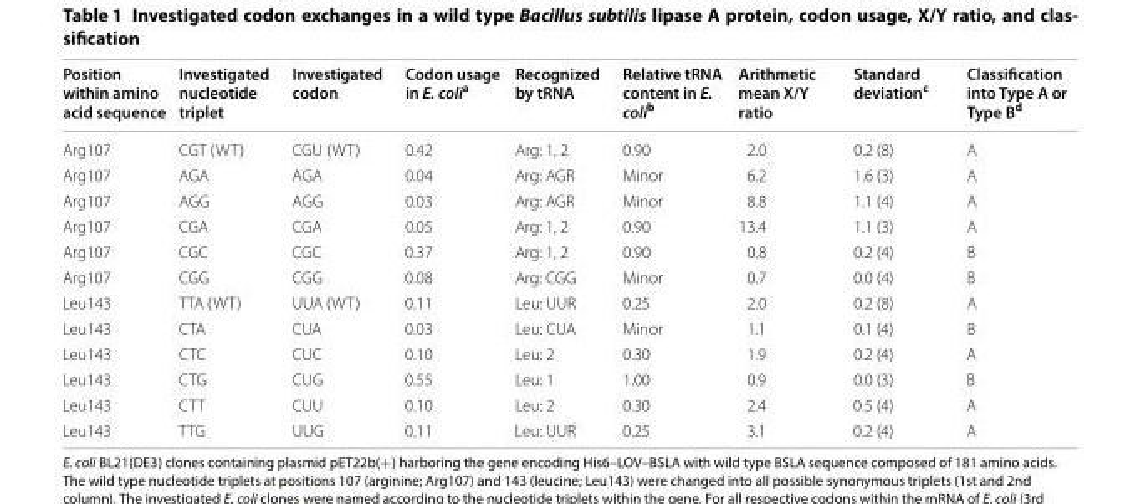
<table><thead><tr><td>Position within amino acid sequence</td><td>Investigated nucleotide triplet</td><td>Investigated codon</td><td>Codon usage in E. coli<sup>a</sup></td><td>Recognized by tRNA</td><td>Relative tRNA content in E. coli<sup>b</sup></td><td>Arithmetic mean X/Y ratio</td><td>Standard deviation<sup>c</sup></td><td>Classification into Type A or Type B<sup>d</sup></td></tr></thead><tbody><tr><td>Arg107</td><td>CGT (WT)</td><td>CGU (WT)</td><td>0.42</td><td>Arg: 1, 2</td><td>0.90</td><td>2.0</td><td>0.2 (8)</td><td>A</td></tr><tr><td>Arg107</td><td>AGA</td><td>AGA</td><td>0.04</td><td>Arg: AGR</td><td>Minor</td><td>6.2</td><td>1.6 (3)</td><td>A</td></tr><tr><td>Arg107</td><td>AGG</td><td>AGG</td><td>0.03</td><td>Arg: AGR</td><td>Minor</td><td>8.8</td><td>1.1 (4)</td><td>A</td></tr><tr><td>Arg107</td><td>CGA</td><td>CGA</td><td>0.05</td><td>Arg: 1, 2</td><td>0.90</td><td>13.4</td><td>1.1 (3)</td><td>A</td></tr><tr><td>Arg107</td><td>CGC</td><td>CGC</td><td>0.37</td><td>Arg: 1, 2</td><td>0.90</td><td>0.8</td><td>0.2 (4)</td><td>B</td></tr><tr><td>Arg107</td><td>CGG</td><td>CGG</td><td>0.08</td><td>Arg: CGG</td><td>Minor</td><td>0.7</td><td>0.0 (4)</td><td>B</td></tr><tr><td>Leu143</td><td>TTA (WT)</td><td>UUA (WT)</td><td>0.11</td><td>Leu: UUR</td><td>0.25</td><td>2.0</td><td>0.2 (8)</td><td>A</td></tr><tr><td>Leu143</td><td>CTA</td><td>CUA</td><td>0.03</td><td>Leu: CUA</td><td>Minor</td><td>1.1</td><td>0.1 (4)</td><td>B</td></tr><tr><td>Leu143</td><td>CTC</td><td>CUC</td><td>0.10</td><td>Leu: 2</td><td>0.30</td><td>1.9</td><td>0.2 (4)</td><td>A</td></tr><tr><td>Leu143</td><td>CTG</td><td>CUG</td><td>0.55</td><td>Leu: 1</td><td>1.00</td><td>0.9</td><td>0.0 (3)</td><td>B</td></tr><tr><td>Leu143</td><td>CTT</td><td>CUU</td><td>0.10</td><td>Leu: 2</td><td>0.30</td><td>2.4</td><td>0.5 (4)</td><td>A</td></tr><tr><td>Leu143</td><td>TTG</td><td>UUG</td><td>0.11</td><td>Leu: UUR</td><td>0.25</td><td>3.1</td><td>0.2 (4)</td><td>A</td></tr></tbody></table>